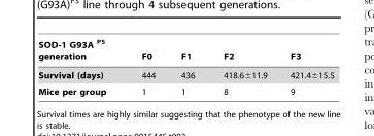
<table><thead><tr><td>SOD-1 G93A <sup>PS</sup> generation</td><td>F0</td><td>F1</td><td>F2</td><td>F3</td></tr></thead><tbody><tr><td>Survival (days)</td><td>444</td><td>436</td><td>418.6±11.9</td><td>421.4±15.5</td></tr><tr><td>Mice per group</td><td>1</td><td>1</td><td>8</td><td>9</td></tr></tbody></table>